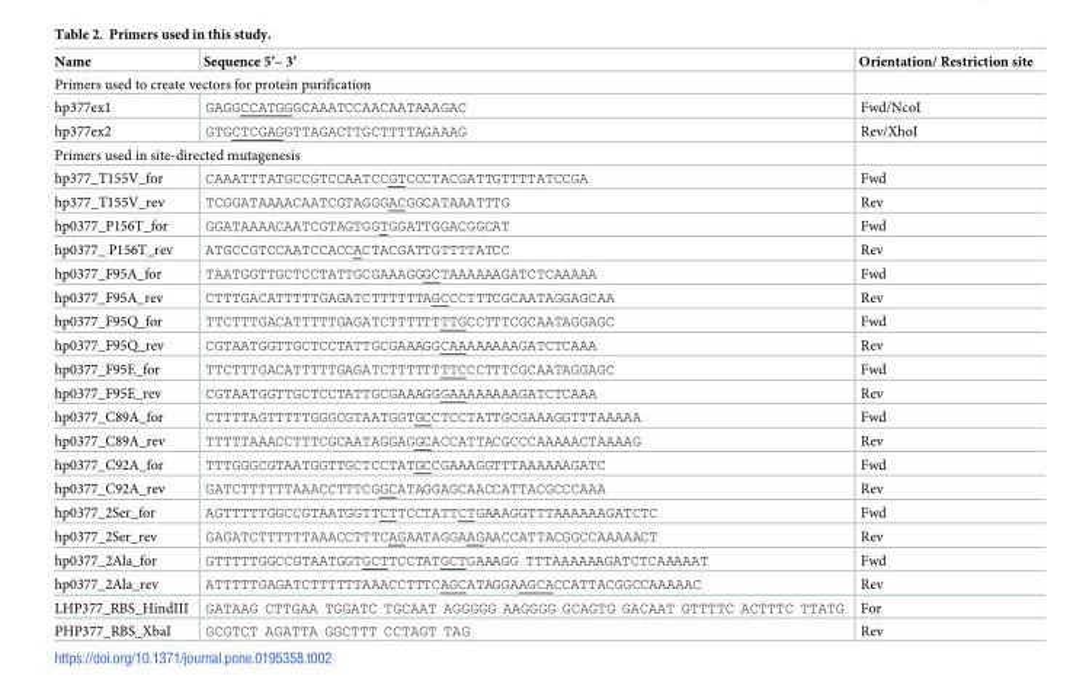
<table><thead><tr><td>Name</td><td>Sequence 5’– 3’</td><td>Orientation/ Restriction site</td></tr></thead><tbody><tr><td colspan="3">Primers used to create vectors for protein purification</td></tr><tr><td>hp377ex1</td><td>GAGGCCATGGGCAAATCCAACAATAAAGAC</td><td>Fwd/NcoI</td></tr><tr><td>hp377ex2</td><td>GTGCTCGAGGTTAGACTTGCTTTTAGAAAG</td><td>Rev/XhoI</td></tr><tr><td colspan="3">Primers used in site-directed mutagenesis</td></tr><tr><td>hp377_T155V_for</td><td>CAAATTTATGCCGTCCAATCCGTCCCTACGATTGTTTTATCCGA</td><td>Fwd</td></tr><tr><td>hp377_T155V_rev</td><td>TCGGATAAAACAATCGTAGGGACGGCATAAATTTG</td><td>Rev</td></tr><tr><td>hp0377_P156T_for</td><td>GGATAAAACAATCGTAGTGGTGGATTGGACGGCAT</td><td>Fwd</td></tr><tr><td>hp0377_ P156T_rev</td><td>ATGCCGTCCAATCCACCACTACGATTGTTTTATCC</td><td>Rev</td></tr><tr><td>hp0377_F95A_for</td><td>TAATGGTTGCTCCTATTGCGAAAGGGCTAAAAAAGATCTCAAAAA</td><td>Fwd</td></tr><tr><td>hp0377_F95A_rev</td><td>CTTTGACATTTTTGAGATCTTTTTTAGCCCTTTCGCAATAGGAGCAA</td><td>Rev</td></tr><tr><td>hp0377_F95Q_for</td><td>TTCTTTGACATTTTTGAGATCTTTTTTTTGCCTTTCGCAATAGGAGC</td><td>Fwd</td></tr><tr><td>hp0377_F95Q_rev</td><td>CGTAATGGTTGCTCCTATTGCGAAAGGCAAAAAAAAGATCTCAAA</td><td>Rev</td></tr><tr><td>hp0377_F95E_for</td><td>TTCTTTGACATTTTTGAGATCTTTTTTTTCCCTTTCGCAATAGGAGC</td><td>Fwd</td></tr><tr><td>hp0377_F95E_rev</td><td>CGTAATGGTTGCTCCTATTGCGAAAGGGAAAAAAAAGATCTCAAA</td><td>Rev</td></tr><tr><td>hp0377_C89A_for</td><td>CTTTTAGTTTTTGGGCGTAATGGTGCCTCCTATTGCGAAAGGTTTAAAAA</td><td>Fwd</td></tr><tr><td>hp0377_C89A_rev</td><td>TTTTTAAACCTTTCGCAATAGGAGGCACCATTACGCCCAAAAACTAAAAG</td><td>Rev</td></tr><tr><td>hp0377_C92A_for</td><td>TTTGGGCGTAATGGTTGCTCCTATGCCGAAAGGTTTAAAAAAGATC</td><td>Fwd</td></tr><tr><td>hp0377_C92A_rev</td><td>GATCTTTTTTAAACCTTTCGGCATAGGAGCAACCATTACGCCCAAA</td><td>Rev</td></tr><tr><td>hp0377_2Ser_for</td><td>AGTTTTTGGCCGTAATGGTTCTTCCTATTCTGAAAGGTTTAAAAAAGATCTC</td><td>Fwd</td></tr><tr><td>hp0377_2Ser_rev</td><td>GAGATCTTTTTTAAACCTTTCAGAATAGGAAGAACCATTACGGCCAAAAACT</td><td>Rev</td></tr><tr><td>hp0377_2Ala_for</td><td>GTTTTTGGCCGTAATGGTGCTTCCTATGCTGAAAGG TTTAAAAAAGATCTCAAAAAT</td><td>Fwd</td></tr><tr><td>hp0377_2Ala_rev</td><td>ATTTTTGAGATCTTTTTTAAACCTTTCAGCATAGGAAGCACCATTACGGCCAAAAAC</td><td>Rev</td></tr><tr><td>LHP377_RBS_HindIII</td><td>GATAAG CTTGAA TGGATC TGCAAT AGGGGG AAGGGG GCAGTG GACAAT GTTTTC ACTTTC TTATG</td><td>For</td></tr><tr><td>PHP377_RBS_XbaI</td><td>GCGTCT AGATTA GGCTTT CCTAGT TAG</td><td>Rev</td></tr></tbody></table>